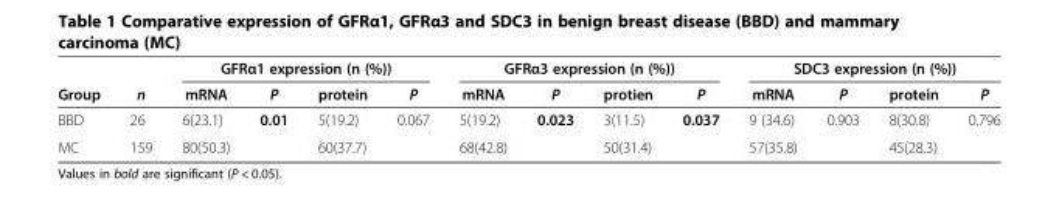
<table><thead><tr><td rowspan="2">Group</td><td rowspan="2">n</td><td colspan="4">GFRα1 expression (n (%))</td><td colspan="4">GFRα3 expression (n (%))</td><td colspan="4">SDC3 expression (n (%))</td></tr><tr><td>mRNA</td><td>P</td><td>protein</td><td>P</td><td>mRNA</td><td>P</td><td>protien</td><td>P</td><td>mRNA</td><td>P</td><td>protein</td><td>P</td></tr></thead><tbody><tr><td>BBD</td><td>26</td><td>6(23.1)</td><td>0.01</td><td>5(19.2)</td><td>0.067</td><td>5(19.2)</td><td>0.023</td><td>3(11.5)</td><td>0.037</td><td>9 (34.6)</td><td>0.903</td><td>8(30.8)</td><td>0.796</td></tr><tr><td>MC</td><td>159</td><td>80(50.3)</td><td></td><td>60(37.7)</td><td></td><td>68(42.8)</td><td></td><td>50(31.4)</td><td></td><td>57(35.8)</td><td></td><td>45(28.3)</td><td></td></tr></tbody></table>